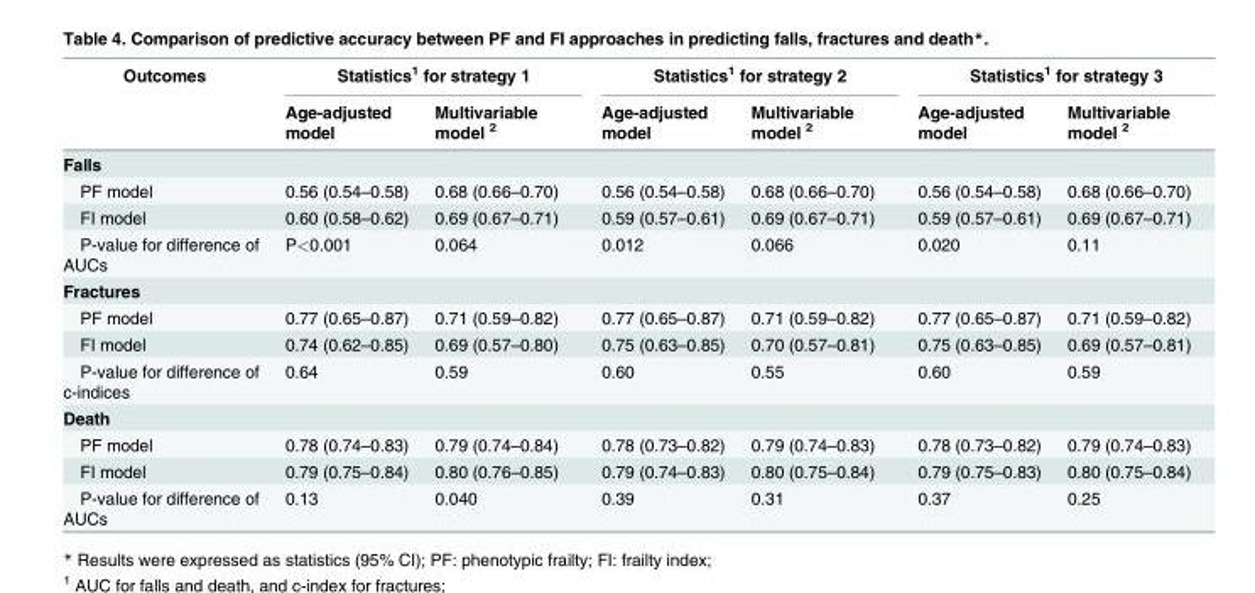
<table><thead><tr><td rowspan="2">Outcomes</td><td colspan="2">Statistics<sup>1</sup> for strategy 1</td><td colspan="2">Statistics<sup>1</sup> for strategy 2</td><td colspan="2">Statistics<sup>1</sup> for strategy 3</td></tr><tr><td>Age-adjusted model</td><td>Multivariable model <sup>2</sup></td><td>Age-adjusted model</td><td>Multivariable model <sup>2</sup></td><td>Age-adjusted model</td><td>Multivariable model <sup>2</sup></td></tr></thead><tbody><tr><td colspan="7">Falls</td></tr><tr><td>PF model</td><td>0.56 (0.54–0.58)</td><td>0.68 (0.66–0.70)</td><td>0.56 (0.54–0.58)</td><td>0.68 (0.66–0.70)</td><td>0.56 (0.54–0.58)</td><td>0.68 (0.66–0.70)</td></tr><tr><td>FI model</td><td>0.60 (0.58–0.62)</td><td>0.69 (0.67–0.71)</td><td>0.59 (0.57–0.61)</td><td>0.69 (0.67–0.71)</td><td>0.59 (0.57–0.61)</td><td>0.69 (0.67–0.71)</td></tr><tr><td>P-value for difference of AUCs</td><td>P&lt;0.001</td><td>0.064</td><td>0.012</td><td>0.066</td><td>0.020</td><td>0.11</td></tr><tr><td colspan="7">Fractures</td></tr><tr><td>PF model</td><td>0.77 (0.65–0.87)</td><td>0.71 (0.59–0.82)</td><td>0.77 (0.65–0.87)</td><td>0.71 (0.59–0.82)</td><td>0.77 (0.65–0.87)</td><td>0.71 (0.59–0.82)</td></tr><tr><td>FI model</td><td>0.74 (0.62–0.85)</td><td>0.69 (0.57–0.80)</td><td>0.75 (0.63–0.85)</td><td>0.70 (0.57–0.81)</td><td>0.75 (0.63–0.85)</td><td>0.69 (0.57–0.81)</td></tr><tr><td>P-value for difference of c-indices</td><td>0.64</td><td>0.59</td><td>0.60</td><td>0.55</td><td>0.60</td><td>0.59</td></tr><tr><td colspan="7">Death</td></tr><tr><td>PF model</td><td>0.78 (0.74–0.83)</td><td>0.79 (0.74–0.84)</td><td>0.78 (0.73–0.82)</td><td>0.79 (0.74–0.83)</td><td>0.78 (0.73–0.82)</td><td>0.79 (0.74–0.83)</td></tr><tr><td>FI model</td><td>0.79 (0.75–0.84)</td><td>0.80 (0.76–0.85)</td><td>0.79 (0.74–0.83)</td><td>0.80 (0.75–0.84)</td><td>0.79 (0.75–0.83)</td><td>0.80 (0.75–0.84)</td></tr><tr><td>P-value for difference of AUCs</td><td>0.13</td><td>0.040</td><td>0.39</td><td>0.31</td><td>0.37</td><td>0.25</td></tr></tbody></table>